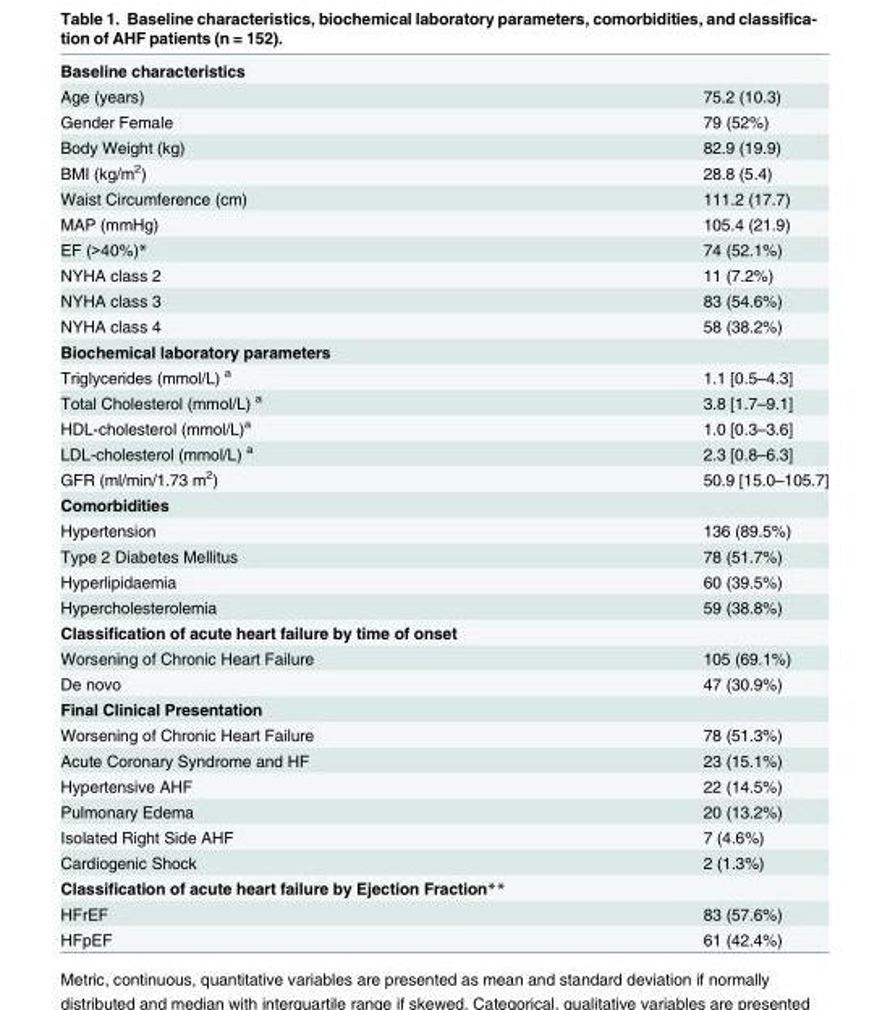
<table><tbody><tr><td colspan="2">Baseline characteristics</td></tr><tr><td>Age (years)</td><td>75.2 (10.3)</td></tr><tr><td>Gender Female</td><td>79 (52%)</td></tr><tr><td>Body Weight (kg)</td><td>82.9 (19.9)</td></tr><tr><td>BMI (kg/m<sup>2</sup>)</td><td>28.8 (5.4)</td></tr><tr><td>Waist Circumference (cm)</td><td>111.2 (17.7)</td></tr><tr><td>MAP (mmHg)</td><td>105.4 (21.9)</td></tr><tr><td>EF (&gt;40%)*</td><td>74 (52.1%)</td></tr><tr><td>NYHA class 2</td><td>11 (7.2%)</td></tr><tr><td>NYHA class 3</td><td>83 (54.6%)</td></tr><tr><td>NYHA class 4</td><td>58 (38.2%)</td></tr><tr><td colspan="2">Biochemical laboratory parameters</td></tr><tr><td>Triglycerides (mmol/L) <sup>a</sup></td><td>1.1 [0.5–4.3]</td></tr><tr><td>Total Cholesterol (mmol/L) <sup>a</sup></td><td>3.8 [1.7–9.1]</td></tr><tr><td>HDL-cholesterol (mmol/L)<sup>a</sup></td><td>1.0 [0.3–3.6]</td></tr><tr><td>LDL-cholesterol (mmol/L) <sup>a</sup></td><td>2.3 [0.8–6.3]</td></tr><tr><td>GFR (ml/min/1.73 m<sup>2</sup>)</td><td>50.9 [15.0–105.7]</td></tr><tr><td colspan="2">Comorbidities</td></tr><tr><td>Hypertension</td><td>136 (89.5%)</td></tr><tr><td>Type 2 Diabetes Mellitus</td><td>78 (51.7%)</td></tr><tr><td>Hyperlipidaemia</td><td>60 (39.5%)</td></tr><tr><td>Hypercholesterolemia</td><td>59 (38.8%)</td></tr><tr><td colspan="2">Classification of acute heart failure by time of onset</td></tr><tr><td>Worsening of Chronic Heart Failure</td><td>105 (69.1%)</td></tr><tr><td>De novo</td><td>47 (30.9%)</td></tr><tr><td colspan="2">Final Clinical Presentation</td></tr><tr><td>Worsening of Chronic Heart Failure</td><td>78 (51.3%)</td></tr><tr><td>Acute Coronary Syndrome and HF</td><td>23 (15.1%)</td></tr><tr><td>Hypertensive AHF</td><td>22 (14.5%)</td></tr><tr><td>Pulmonary Edema</td><td>20 (13.2%)</td></tr><tr><td>Isolated Right Side AHF</td><td>7 (4.6%)</td></tr><tr><td>Cardiogenic Shock</td><td>2 (1.3%)</td></tr><tr><td colspan="2">Classification of acute heart failure by Ejection Fraction**</td></tr><tr><td>HFrEF</td><td>83 (57.6%)</td></tr><tr><td>HFpEF</td><td>61 (42.4%)</td></tr></tbody></table>